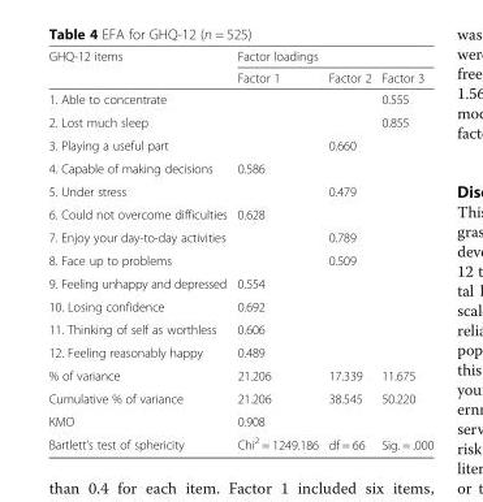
<table><thead><tr><td rowspan="2">GHQ-12 items</td><td colspan="3">Factor loadings</td></tr><tr><td>Factor 1</td><td>Factor 2</td><td>Factor 3</td></tr></thead><tbody><tr><td>1. Able to concentrate</td><td></td><td></td><td>0.555</td></tr><tr><td>2. Lost much sleep</td><td></td><td></td><td>0.855</td></tr><tr><td>3. Playing a useful part</td><td></td><td>0.660</td><td></td></tr><tr><td>4. Capable of making decisions</td><td>0.586</td><td></td><td></td></tr><tr><td>5. Under stress</td><td></td><td>0.479</td><td></td></tr><tr><td>6. Could not overcome difficulties</td><td>0.628</td><td></td><td></td></tr><tr><td>7. Enjoy your day-to-day activities</td><td></td><td>0.789</td><td></td></tr><tr><td>8. Face up to problems</td><td></td><td>0.509</td><td></td></tr><tr><td>9. Feeling unhappy and depressed</td><td>0.554</td><td></td><td></td></tr><tr><td>10. Losing confidence</td><td>0.692</td><td></td><td></td></tr><tr><td>11. Thinking of self as worthless</td><td>0.606</td><td></td><td></td></tr><tr><td>12. Feeling reasonably happy</td><td>0.489</td><td></td><td></td></tr><tr><td>% of variance</td><td>21.206</td><td>17.339</td><td>11.675</td></tr><tr><td>Cumulative % of variance</td><td>21.206</td><td>38.545</td><td>50.220</td></tr><tr><td>KMO</td><td colspan="3">0.908</td></tr><tr><td>Bartlett’s test of sphericity</td><td>Chi<sup>2</sup> = 1249.186</td><td>df = 66</td><td>Sig. = .000</td></tr></tbody></table>